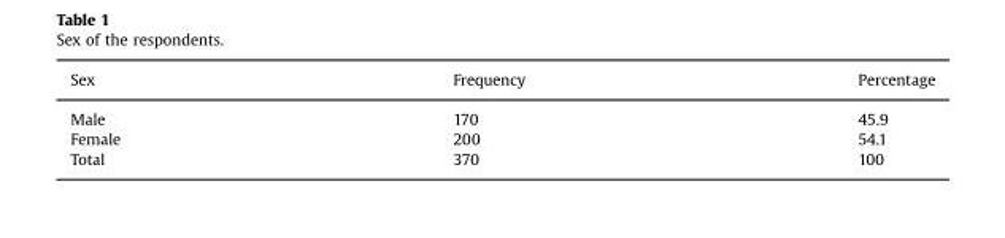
<table><thead><tr><td>Sex</td><td>Frequency</td><td>Percentage</td></tr></thead><tbody><tr><td>Male</td><td>170</td><td>45.9</td></tr><tr><td>Female</td><td>200</td><td>54.1</td></tr><tr><td>Total</td><td>370</td><td>100</td></tr></tbody></table>